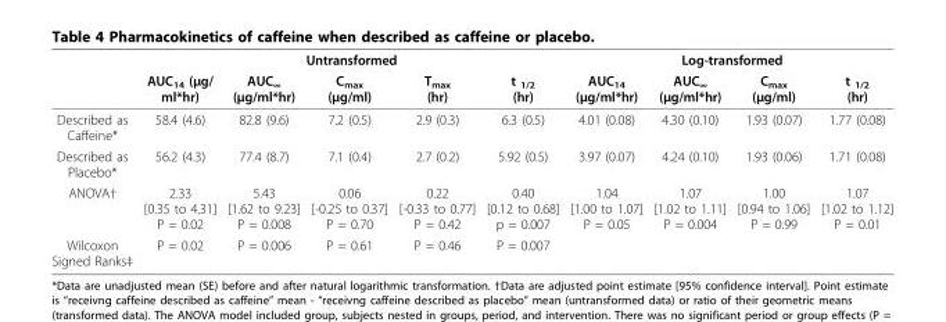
<table><thead><tr><td rowspan="2"></td><td colspan="5">Untransformed</td><td colspan="4">Log-transformed</td></tr><tr><td>AUC<sub>14</sub> (μg/ ml*hr)</td><td>AUC<sub>∞</sub> (μg/ml*hr)</td><td>C<sub>max</sub> (μg/ml)</td><td>T<sub>max</sub> (hr)</td><td>t <sub>1/2</sub> (hr)</td><td>AUC<sub>14</sub> (μg/ml*hr)</td><td>AUC<sub>∞</sub> (μg/ml*hr)</td><td>C<sub>max</sub> (μg/ml)</td><td>t <sub>1/2</sub> (hr)</td></tr></thead><tbody><tr><td>Described as Caffeine*</td><td>58.4 (4.6)</td><td>82.8 (9.6)</td><td>7.2 (0.5)</td><td>2.9 (0.3)</td><td>6.3 (0.5)</td><td>4.01 (0.08)</td><td>4.30 (0.10)</td><td>1.93 (0.07)</td><td>1.77 (0.08)</td></tr><tr><td>Described as Placebo*</td><td>56.2 (4.3)</td><td>77.4 (8.7)</td><td>7.1 (0.4)</td><td>2.7 (0.2)</td><td>5.92 (0.5)</td><td>3.97 (0.07)</td><td>4.24 (0.10)</td><td>1.93 (0.06)</td><td>1.71 (0.08)</td></tr><tr><td>ANOVA†</td><td>2.33 [0.35 to 4.31] P = 0.02</td><td>5.43 [1.62 to 9.23] P = 0.008</td><td>0.06 [-0.25 to 0.37] P = 0.70</td><td>0.22 [-0.33 to 0.77] P = 0.42</td><td>0.40 [0.12 to 0.68] p = 0.007</td><td>1.04 [1.00 to 1.07] P = 0.05</td><td>1.07 [1.02 to 1.11] P = 0.004</td><td>1.00 [0.94 to 1.06] P = 0.99</td><td>1.07 [1.02 to 1.12] P = 0.01</td></tr><tr><td>Wilcoxon Signed Ranks‡</td><td>P = 0.02</td><td>P = 0.006</td><td>P = 0.61</td><td>P = 0.46</td><td>P = 0.007</td><td></td><td></td><td></td><td></td></tr></tbody></table>